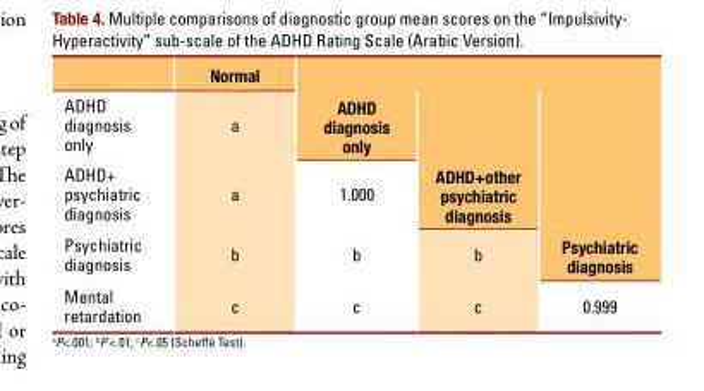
<table><thead><tr><td></td><td>Normal</td><td></td><td></td><td></td></tr></thead><tbody><tr><td>Adhd diagnosis only</td><td>a</td><td>ADHD diagnosis only</td><td></td><td></td></tr><tr><td>Adhd+ psychiatric diagnosis</td><td>a</td><td>1.000</td><td>ADHD+other psychiatric diagnosis</td><td></td></tr><tr><td>Psychiatric diagnosis</td><td>b</td><td>b</td><td>b</td><td>Psychiatric diagnosis</td></tr><tr><td>Mental retardation</td><td>c</td><td>c</td><td>c</td><td>0.999</td></tr></tbody></table>